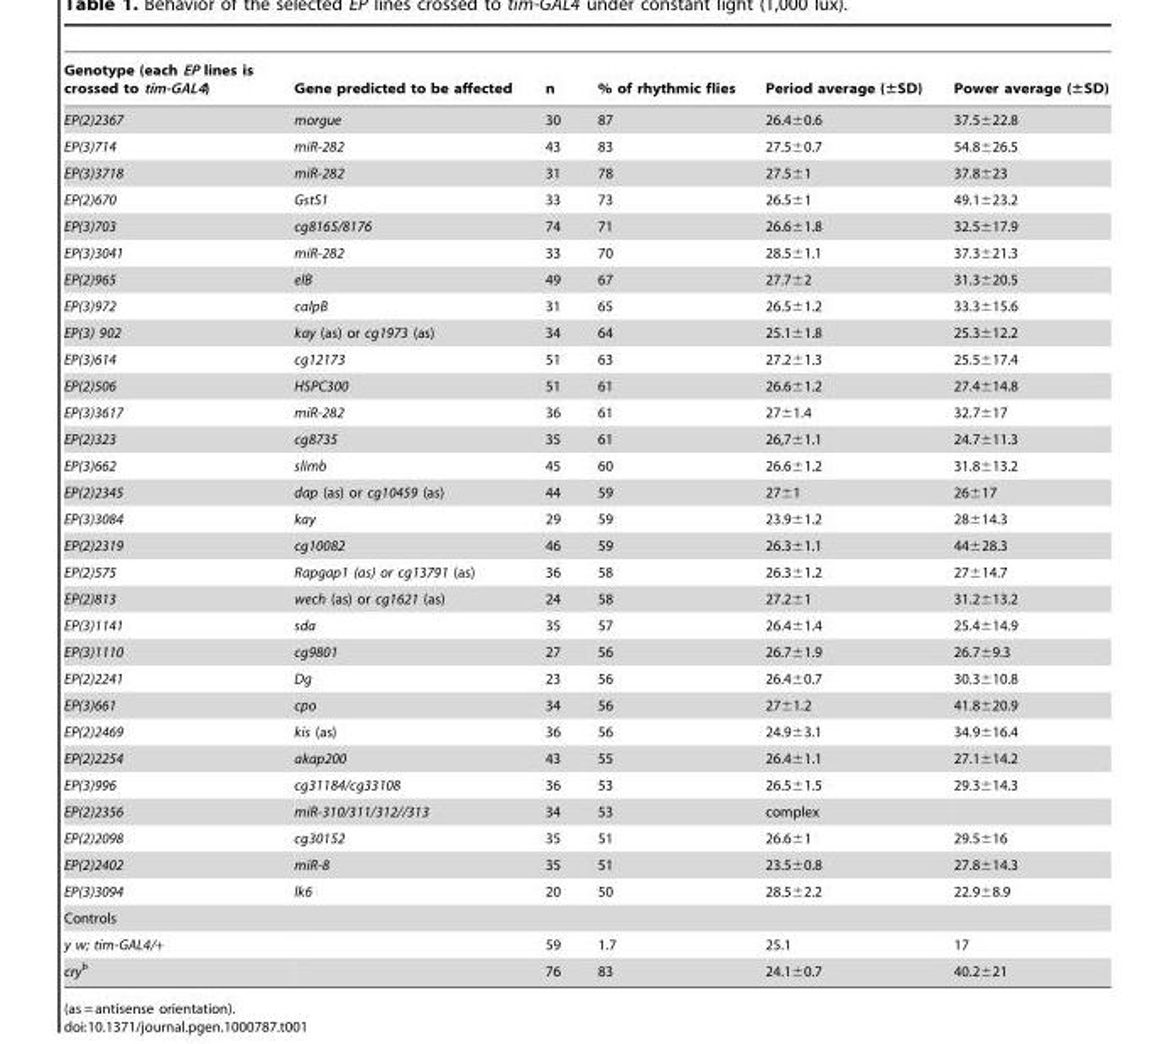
<table><thead><tr><td>Genotype (each EP lines is crossed to tim-GAL4)</td><td>Gene predicted to be affected</td><td>n</td><td>% of rhythmic flies</td><td>Period average (±SD)</td><td>Power average (±SD)</td></tr></thead><tbody><tr><td>EP(2)2367</td><td>morgue</td><td>30</td><td>87</td><td>26.4±0.6</td><td>37.5±22.8</td></tr><tr><td>EP(3)714</td><td>miR-282</td><td>43</td><td>83</td><td>27.5±0.7</td><td>54.8±26.5</td></tr><tr><td>EP(3)3718</td><td>miR-282</td><td>31</td><td>78</td><td>27.5±1</td><td>37.8±23</td></tr><tr><td>EP(2)670</td><td>GstS1</td><td>33</td><td>73</td><td>26.5±1</td><td>49.1±23.2</td></tr><tr><td>EP(3)703</td><td>cg8165/8176</td><td>74</td><td>71</td><td>26.6±1.8</td><td>32.5±17.9</td></tr><tr><td>EP(3)3041</td><td>miR-282</td><td>33</td><td>70</td><td>28.5±1.1</td><td>37.3±21.3</td></tr><tr><td>EP(2)965</td><td>elB</td><td>49</td><td>67</td><td>27.7±2</td><td>31.3±20.5</td></tr><tr><td>EP(3)972</td><td>calpB</td><td>31</td><td>65</td><td>26.5±1.2</td><td>33.3±15.6</td></tr><tr><td>EP(3) 902</td><td>kay (as) or cg1973 (as)</td><td>34</td><td>64</td><td>25.1±1.8</td><td>25.3±12.2</td></tr><tr><td>EP(3)614</td><td>cg12173</td><td>51</td><td>63</td><td>27.2±1.3</td><td>25.5±17.4</td></tr><tr><td>EP(2)506</td><td>HSPC300</td><td>51</td><td>61</td><td>26.6±1.2</td><td>27.4±14.8</td></tr><tr><td>EP(3)3617</td><td>miR-282</td><td>36</td><td>61</td><td>27±1.4</td><td>32.7±17</td></tr><tr><td>EP(2)323</td><td>cg8735</td><td>35</td><td>61</td><td>26,7±1.1</td><td>24.7±11.3</td></tr><tr><td>EP(3)662</td><td>slimb</td><td>45</td><td>60</td><td>26.6±1.2</td><td>31.8±13.2</td></tr><tr><td>EP(2)2345</td><td>dap (as) or cg10459 (as)</td><td>44</td><td>59</td><td>27±1</td><td>26±17</td></tr><tr><td>EP(3)3084</td><td>kay</td><td>29</td><td>59</td><td>23.9±1.2</td><td>28±14.3</td></tr><tr><td>EP(2)2319</td><td>cg10082</td><td>46</td><td>59</td><td>26.3±1.1</td><td>44±28.3</td></tr><tr><td>EP(2)575</td><td>Rapgap1 (as) or cg13791 (as)</td><td>36</td><td>58</td><td>26.3±1.2</td><td>27±14.7</td></tr><tr><td>EP(2)813</td><td>wech (as) or cg1621 (as)</td><td>24</td><td>58</td><td>27.2±1</td><td>31.2±13.2</td></tr><tr><td>EP(3)1141</td><td>sda</td><td>35</td><td>57</td><td>26.4±1.4</td><td>25.4±14.9</td></tr><tr><td>EP(3)1110</td><td>cg9801</td><td>27</td><td>56</td><td>26.7±1.9</td><td>26.7±9.3</td></tr><tr><td>EP(2)2241</td><td>Dg</td><td>23</td><td>56</td><td>26.4±0.7</td><td>30.3±10.8</td></tr><tr><td>EP(3)661</td><td>cpo</td><td>34</td><td>56</td><td>27±1.2</td><td>41.8±20.9</td></tr><tr><td>EP(2)2469</td><td>kis (as)</td><td>36</td><td>56</td><td>24.9±3.1</td><td>34.9±16.4</td></tr><tr><td>EP(2)2254</td><td>akap200</td><td>43</td><td>55</td><td>26.4±1.1</td><td>27.1±14.2</td></tr><tr><td>EP(3)996</td><td>cg31184/cg33108</td><td>36</td><td>53</td><td>26.5±1.5</td><td>29.3±14.3</td></tr><tr><td>EP(2)2356</td><td>miR-310/311/312//313</td><td>34</td><td>53</td><td>complex</td><td></td></tr><tr><td>EP(2)2098</td><td>cg30152</td><td>35</td><td>51</td><td>26.6±1</td><td>29.5±16</td></tr><tr><td>EP(2)2402</td><td>miR-8</td><td>35</td><td>51</td><td>23.5±0.8</td><td>27.8±14.3</td></tr><tr><td>EP(3)3094</td><td>lk6</td><td>20</td><td>50</td><td>28.5±2.2</td><td>22.9±8.9</td></tr><tr><td colspan="6">Controls</td></tr><tr><td>y w; tim-GAL4/+</td><td></td><td>59</td><td>1.7</td><td>25.1</td><td>17</td></tr><tr><td>cry<sup>b</sup></td><td></td><td>76</td><td>83</td><td>24.1±0.7</td><td>40.2±21</td></tr></tbody></table>